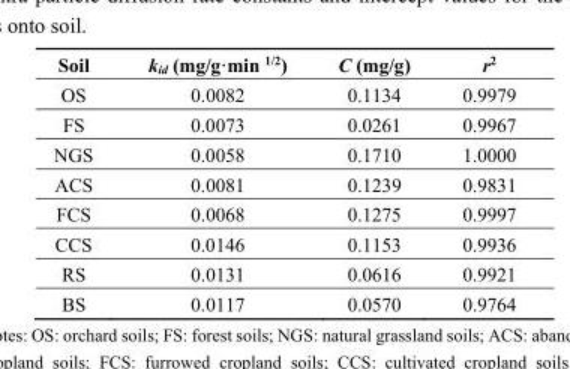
<table><thead><tr><td>Soil</td><td>k<sub>id</sub> (mg/g·min <sup>1/2</sup>)</td><td>C (mg/g)</td><td>r<sup>2</sup></td></tr></thead><tbody><tr><td>OS</td><td>0.0082</td><td>0.1134</td><td>0.9979</td></tr><tr><td>FS</td><td>0.0073</td><td>0.0261</td><td>0.9967</td></tr><tr><td>NGS</td><td>0.0058</td><td>0.1710</td><td>1.0000</td></tr><tr><td>ACS</td><td>0.0081</td><td>0.1239</td><td>0.9831</td></tr><tr><td>FCS</td><td>0.0068</td><td>0.1275</td><td>0.9997</td></tr><tr><td>CCS</td><td>0.0146</td><td>0.1153</td><td>0.9936</td></tr><tr><td>RS</td><td>0.0131</td><td>0.0616</td><td>0.9921</td></tr><tr><td>BS</td><td>0.0117</td><td>0.0570</td><td>0.9764</td></tr></tbody></table>